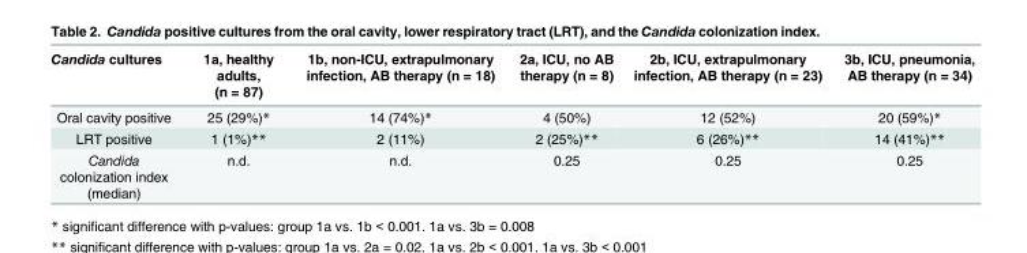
<table><thead><tr><td>Candida cultures</td><td>1a, healthy adults, (n = 87)</td><td>1b, non-ICU, extrapulmonary infection, AB therapy (n = 18)</td><td>2a, ICU, no AB therapy (n = 8)</td><td>2b, ICU, extrapulmonary infection, AB therapy (n = 23)</td><td>3b, ICU, pneumonia, AB therapy (n = 34)</td></tr></thead><tbody><tr><td>Oral cavity positive</td><td>25 (29%)*</td><td>14 (74%)*</td><td>4 (50%)</td><td>12 (52%)</td><td>20 (59%)*</td></tr><tr><td>LRT positive</td><td>1 (1%)**</td><td>2 (11%)</td><td>2 (25%)**</td><td>6 (26%)**</td><td>14 (41%)**</td></tr><tr><td>Candida colonization index (median)</td><td>n.d.</td><td>n.d.</td><td>0.25</td><td>0.25</td><td>0.25</td></tr></tbody></table>